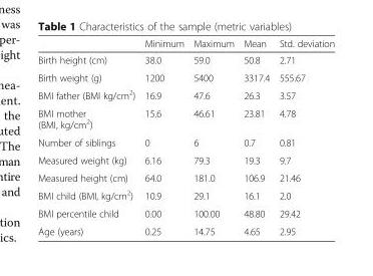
<table><thead><tr><td></td><td>Minimum</td><td>Maximum</td><td>Mean</td><td>Std. deviation</td></tr></thead><tbody><tr><td>Birth height (cm)</td><td>38.0</td><td>59.0</td><td>50.8</td><td>2.71</td></tr><tr><td>Birth weight (g)</td><td>1200</td><td>5400</td><td>3317.4</td><td>555.67</td></tr><tr><td>BMI father (BMI kg/cm<sup>2</sup>)</td><td>16.9</td><td>47.6</td><td>26.3</td><td>3.57</td></tr><tr><td>BMI mother (BMI, kg/cm<sup>2</sup>)</td><td>15.6</td><td>46.61</td><td>23.81</td><td>4.78</td></tr><tr><td>Number of siblings</td><td>0</td><td>6</td><td>0.7</td><td>0.81</td></tr><tr><td>Measured weight (kg)</td><td>6.16</td><td>79.3</td><td>19.3</td><td>9.7</td></tr><tr><td>Measured height (cm)</td><td>64.0</td><td>181.0</td><td>106.9</td><td>21.46</td></tr><tr><td>BMI child (BMI, kg/cm<sup>2</sup>)</td><td>10.9</td><td>29.1</td><td>16.1</td><td>2.0</td></tr><tr><td>BMI percentile child</td><td>0.00</td><td>100.00</td><td>48.80</td><td>29.42</td></tr><tr><td>Age (years)</td><td>0.25</td><td>14.75</td><td>4.65</td><td>2.95</td></tr></tbody></table>